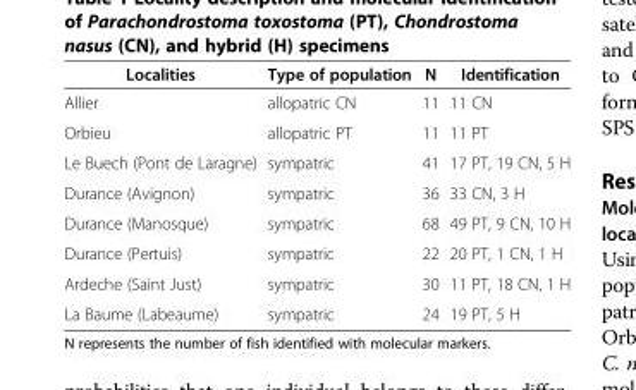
<table><thead><tr><td>Localities</td><td>Type of population</td><td>N</td><td>Identification</td></tr></thead><tbody><tr><td>Allier</td><td>allopatric CN</td><td>11</td><td>11 CN</td></tr><tr><td>Orbieu</td><td>allopatric PT</td><td>11</td><td>11 PT</td></tr><tr><td>Le Buech (Pont de Laragne)</td><td>sympatric</td><td>41</td><td>17 PT, 19 CN, 5 H</td></tr><tr><td>Durance (Avignon)</td><td>sympatric</td><td>36</td><td>33 CN, 3 H</td></tr><tr><td>Durance (Manosque)</td><td>sympatric</td><td>68</td><td>49 PT, 9 CN, 10 H</td></tr><tr><td>Durance (Pertuis)</td><td>sympatric</td><td>22</td><td>20 PT, 1 CN, 1 H</td></tr><tr><td>Ardeche (Saint Just)</td><td>sympatric</td><td>30</td><td>11 PT, 18 CN, 1 H</td></tr><tr><td>La Baume (Labeaume)</td><td>sympatric</td><td>24</td><td>19 PT, 5 H</td></tr></tbody></table>